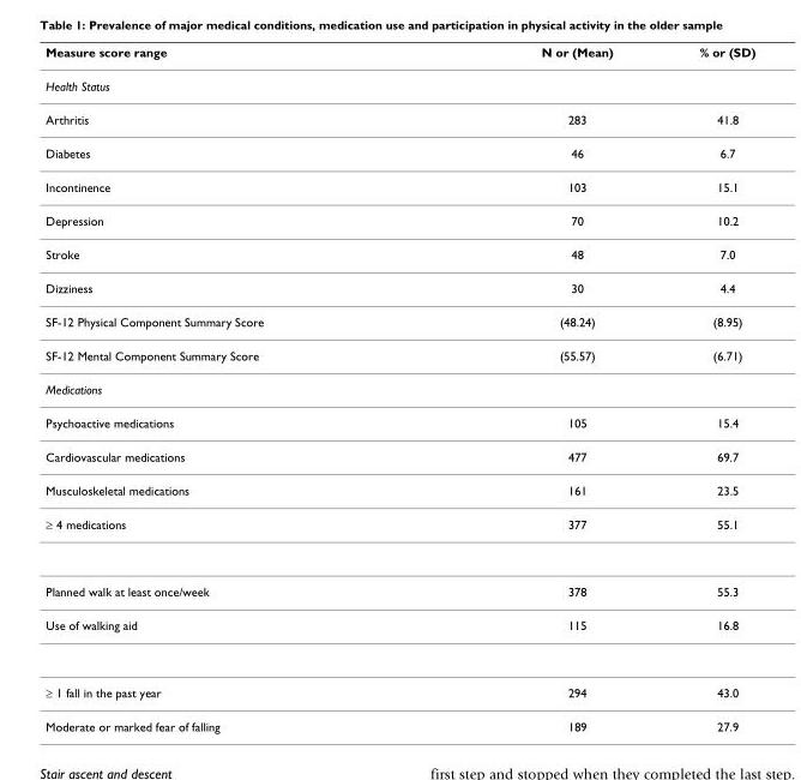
<table><thead><tr><td>Measure score range</td><td>N or (Mean)</td><td>% or (SD)</td></tr></thead><tbody><tr><td colspan="3">Health Status</td></tr><tr><td>Arthritis</td><td>283</td><td>41.8</td></tr><tr><td>Diabetes</td><td>46</td><td>6.7</td></tr><tr><td>Incontinence</td><td>103</td><td>15.1</td></tr><tr><td>Depression</td><td>70</td><td>10.2</td></tr><tr><td>Stroke</td><td>48</td><td>7.0</td></tr><tr><td>Dizziness</td><td>30</td><td>4.4</td></tr><tr><td>SF-12 Physical Component Summary Score</td><td>(48.24)</td><td>(8.95)</td></tr><tr><td>SF-12 Mental Component Summary Score</td><td>(55.57)</td><td>(6.71)</td></tr><tr><td colspan="3">Medications</td></tr><tr><td>Psychoactive medications</td><td>105</td><td>15.4</td></tr><tr><td>Cardiovascular medications</td><td>477</td><td>69.7</td></tr><tr><td>Musculoskeletal medications</td><td>161</td><td>23.5</td></tr><tr><td>≥ 4 medications</td><td>377</td><td>55.1</td></tr><tr><td>Planned walk at least once/week</td><td>378</td><td>55.3</td></tr><tr><td>Use of walking aid</td><td>115</td><td>16.8</td></tr><tr><td>≥ 1 fall in the past year</td><td>294</td><td>43.0</td></tr><tr><td>Moderate or marked fear of falling</td><td>189</td><td>27.9</td></tr></tbody></table>